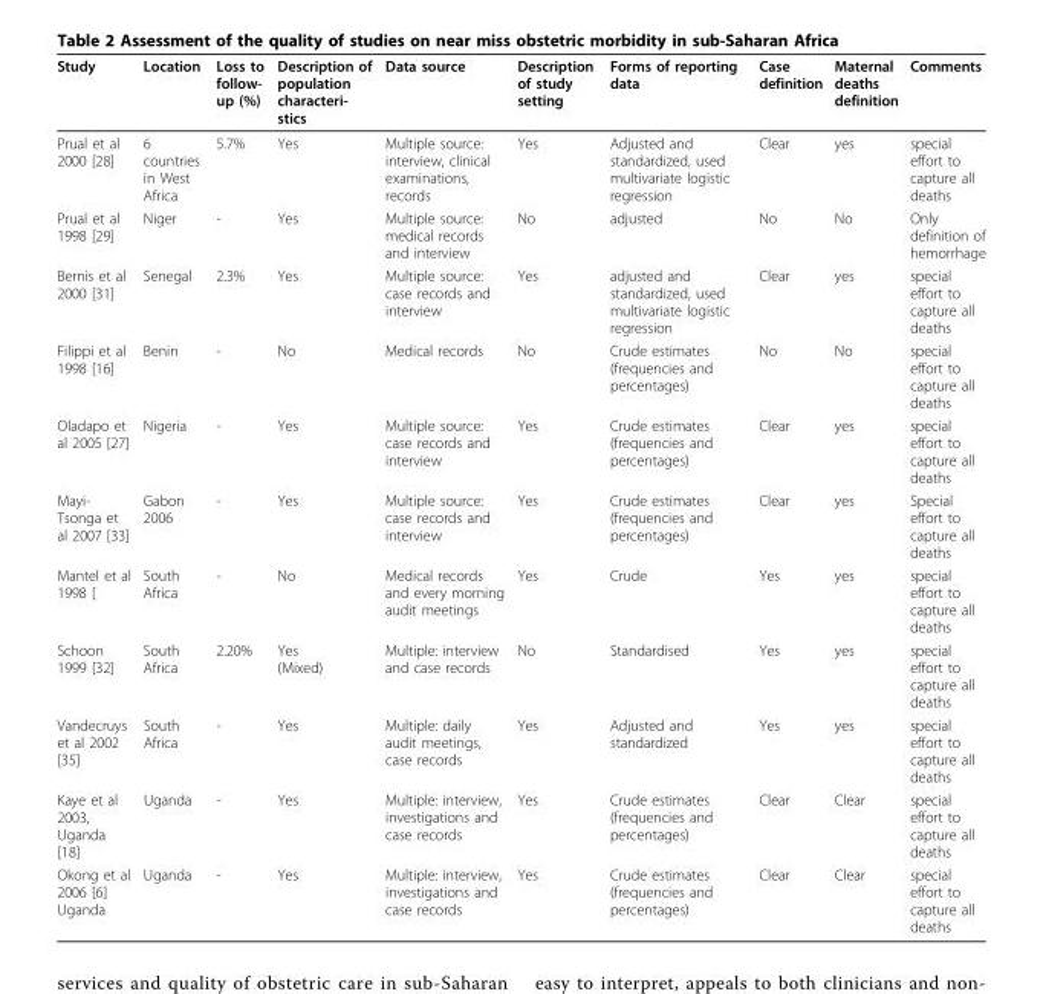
<table><thead><tr><td>Study</td><td>Location</td><td>Loss to follow- up (%)</td><td>Description of population characteri- stics</td><td>Data source</td><td>Description of study setting</td><td>Forms of reporting data</td><td>Case definition</td><td>Maternal deaths definition</td><td>Comments</td></tr></thead><tbody><tr><td>Prual et al 2000 [28]</td><td>6 countries in West Africa</td><td>5.7%</td><td>Yes</td><td>Multiple source: interview, clinical examinations, records</td><td>Yes</td><td>Adjusted and standardized, used multivariate logistic regression</td><td>Clear</td><td>yes</td><td>special effort to capture all deaths</td></tr><tr><td>Prual et al 1998 [29]</td><td>Niger</td><td>-</td><td>Yes</td><td>Multiple source: medical records and interview</td><td>No</td><td>adjusted</td><td>No</td><td>No</td><td>Only definition of hemorrhage</td></tr><tr><td>Bernis et al 2000 [31]</td><td>Senegal</td><td>2.3%</td><td>Yes</td><td>Multiple source: case records and interview</td><td>Yes</td><td>adjusted and standardized, used multivariate logistic regression</td><td>Clear</td><td>yes</td><td>special effort to capture all deaths</td></tr><tr><td>Filippi et al 1998 [16]</td><td>Benin</td><td>-</td><td>No</td><td>Medical records</td><td>No</td><td>Crude estimates (frequencies and percentages)</td><td>No</td><td>No</td><td>special effort to capture all deaths</td></tr><tr><td>Oladapo et al 2005 [27]</td><td>Nigeria</td><td>-</td><td>Yes</td><td>Multiple source: case records and interview</td><td>Yes</td><td>Crude estimates (frequencies and percentages)</td><td>Clear</td><td>yes</td><td>special effort to capture all deaths</td></tr><tr><td>Mayi- Tsonga et al 2007 [33]</td><td>Gabon 2006</td><td>-</td><td>Yes</td><td>Multiple source: case records and interview</td><td>Yes</td><td>Crude estimates (frequencies and percentages)</td><td>Clear</td><td>yes</td><td>Special effort to capture all deaths</td></tr><tr><td>Mantel et al 1998 [</td><td>South Africa</td><td>-</td><td>No</td><td>Medical records and every morning audit meetings</td><td>Yes</td><td>Crude</td><td>Yes</td><td>yes</td><td>special effort to capture all deaths</td></tr><tr><td>Schoon 1999 [32]</td><td>South Africa</td><td>2.20%</td><td>Yes (Mixed)</td><td>Multiple: interview and case records</td><td>No</td><td>Standardised</td><td>Yes</td><td>yes</td><td>special effort to capture all deaths</td></tr><tr><td>Vandecruys et al 2002 [35]</td><td>South Africa</td><td>-</td><td>Yes</td><td>Multiple: daily audit meetings, case records</td><td>Yes</td><td>Adjusted and standardized</td><td>Yes</td><td>yes</td><td>special effort to capture all deaths</td></tr><tr><td>Kaye et al 2003, Uganda [18]</td><td>Uganda</td><td>-</td><td>Yes</td><td>Multiple: interview, investigations and case records</td><td>Yes</td><td>Crude estimates (frequencies and percentages)</td><td>Clear</td><td>Clear</td><td>special effort to capture all deaths</td></tr><tr><td>Okong et al 2006 [6] Uganda</td><td>Uganda</td><td>-</td><td>Yes</td><td>Multiple: interview, investigations and case records</td><td>Yes</td><td>Crude estimates (frequencies and percentages)</td><td>Clear</td><td>Clear</td><td>special effort to capture all deaths</td></tr></tbody></table>